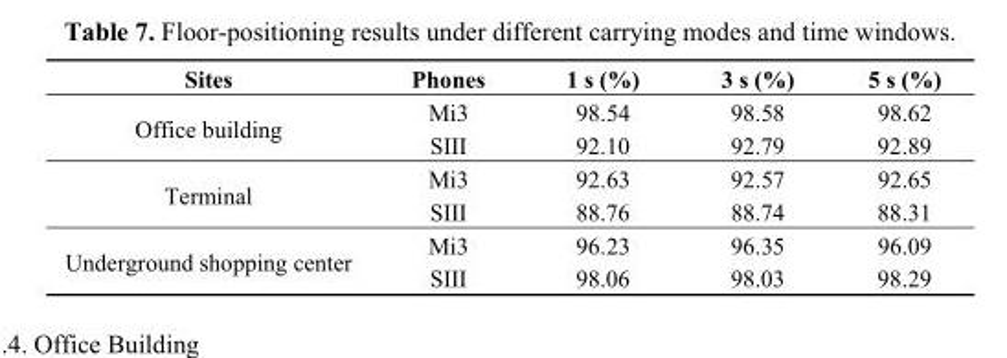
<table><thead><tr><td>Sites</td><td>Phones</td><td>1 s (%)</td><td>3 s (%)</td><td>5 s (%)</td></tr></thead><tbody><tr><td rowspan="2">Office building</td><td>Mi3</td><td>98.54</td><td>98.58</td><td>98.62</td></tr><tr><td>SIII</td><td>92.10</td><td>92.79</td><td>92.89</td></tr><tr><td rowspan="2">Terminal</td><td>Mi3</td><td>92.63</td><td>92.57</td><td>92.65</td></tr><tr><td>SIII</td><td>88.76</td><td>88.74</td><td>88.31</td></tr><tr><td rowspan="2">Underground shopping center</td><td>Mi3</td><td>96.23</td><td>96.35</td><td>96.09</td></tr><tr><td>SIII</td><td>98.06</td><td>98.03</td><td>98.29</td></tr></tbody></table>